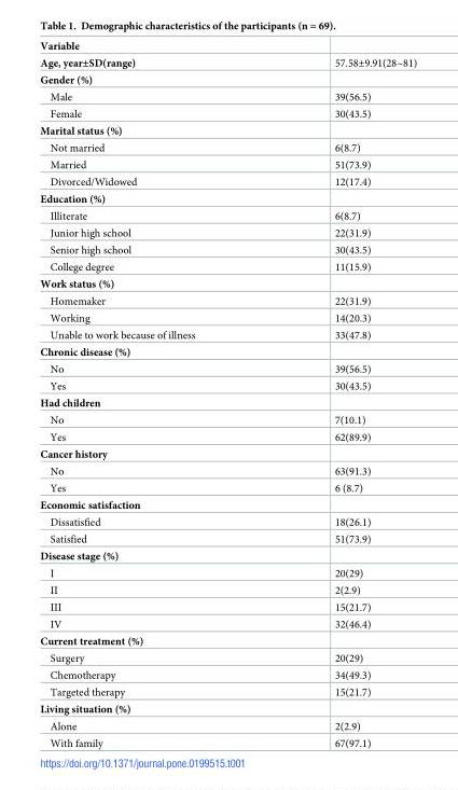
<table><tbody><tr><td colspan="2">Variable</td></tr><tr><td>Age, year±SD(range)</td><td>57.58±9.91(28~81)</td></tr><tr><td colspan="2">Gender (%)</td></tr><tr><td>Male</td><td>39(56.5)</td></tr><tr><td>Female</td><td>30(43.5)</td></tr><tr><td colspan="2">Marital status (%)</td></tr><tr><td>Not married</td><td>6(8.7)</td></tr><tr><td>Married</td><td>51(73.9)</td></tr><tr><td>Divorced/Widowed</td><td>12(17.4)</td></tr><tr><td colspan="2">Education (%)</td></tr><tr><td>Illiterate</td><td>6(8.7)</td></tr><tr><td>Junior high school</td><td>22(31.9)</td></tr><tr><td>Senior high school</td><td>30(43.5)</td></tr><tr><td>College degree</td><td>11(15.9)</td></tr><tr><td colspan="2">Work status (%)</td></tr><tr><td>Homemaker</td><td>22(31.9)</td></tr><tr><td>Working</td><td>14(20.3)</td></tr><tr><td>Unable to work because of illness</td><td>33(47.8)</td></tr><tr><td colspan="2">Chronic disease (%)</td></tr><tr><td>No</td><td>39(56.5)</td></tr><tr><td>Yes</td><td>30(43.5)</td></tr><tr><td colspan="2">Had children</td></tr><tr><td>No</td><td>7(10.1)</td></tr><tr><td>Yes</td><td>62(89.9)</td></tr><tr><td colspan="2">Cancer history</td></tr><tr><td>No</td><td>63(91.3)</td></tr><tr><td>Yes</td><td>6 (8.7)</td></tr><tr><td colspan="2">Economic satisfaction</td></tr><tr><td>Dissatisfied</td><td>18(26.1)</td></tr><tr><td>Satisfied</td><td>51(73.9)</td></tr><tr><td colspan="2">Disease stage (%)</td></tr><tr><td>I</td><td>20(29)</td></tr><tr><td>II</td><td>2(2.9)</td></tr><tr><td>III</td><td>15(21.7)</td></tr><tr><td>IV</td><td>32(46.4)</td></tr><tr><td colspan="2">Current treatment (%)</td></tr><tr><td>Surgery</td><td>20(29)</td></tr><tr><td>Chemotherapy</td><td>34(49.3)</td></tr><tr><td>Targeted therapy</td><td>15(21.7)</td></tr><tr><td colspan="2">Living situation (%)</td></tr><tr><td>Alone</td><td>2(2.9)</td></tr><tr><td>With family</td><td>67(97.1)</td></tr></tbody></table>